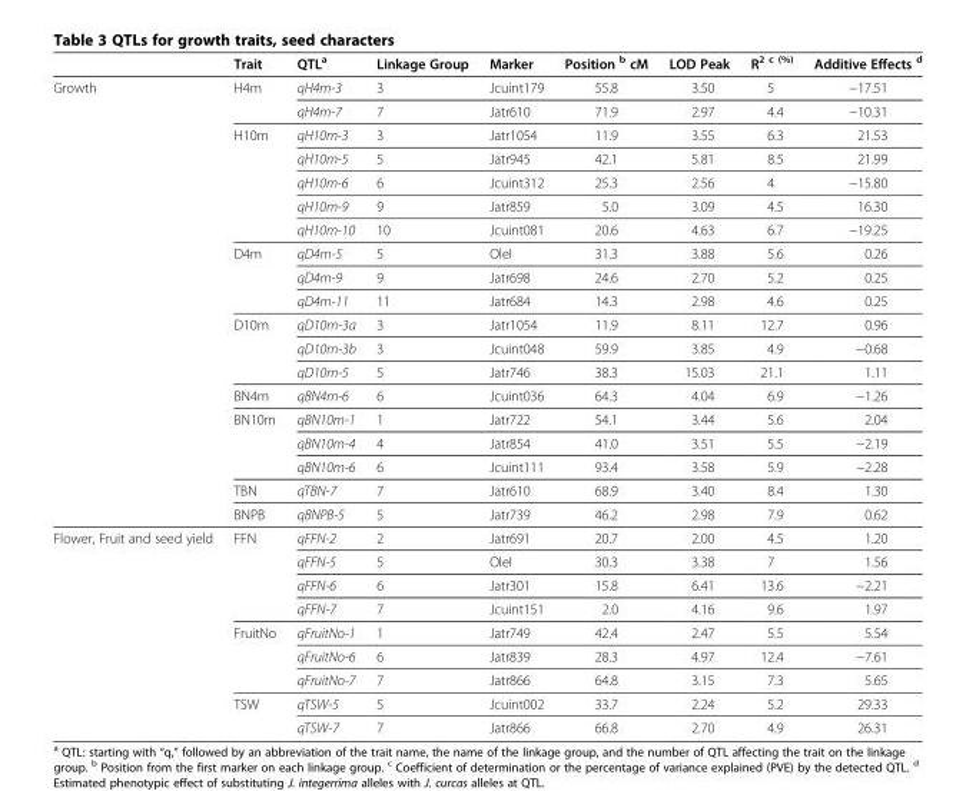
<table><thead><tr><td></td><td>Trait</td><td>QTL<sup>a</sup></td><td>Linkage Group</td><td>Marker</td><td>Position <sup>b</sup> cM</td><td>LOD Peak</td><td>R<sup>2 c (%)</sup></td><td>Additive Effects <sup>d</sup></td></tr></thead><tbody><tr><td rowspan="19">Growth</td><td rowspan="2">H4m</td><td>qH4m-3</td><td>3</td><td>Jcuint179</td><td>55.8</td><td>3.50</td><td>5</td><td>−17.51</td></tr><tr><td>qH4m-7</td><td>7</td><td>Jatr610</td><td>71.9</td><td>2.97</td><td>4.4</td><td>−10.31</td></tr><tr><td rowspan="5">H10m</td><td>qH10m-3</td><td>3</td><td>Jatr1054</td><td>11.9</td><td>3.55</td><td>6.3</td><td>21.53</td></tr><tr><td>qH10m-5</td><td>5</td><td>Jatr945</td><td>42.1</td><td>5.81</td><td>8.5</td><td>21.99</td></tr><tr><td>qH10m-6</td><td>6</td><td>Jcuint312</td><td>25.3</td><td>2.56</td><td>4</td><td>−15.80</td></tr><tr><td>qH10m-9</td><td>9</td><td>Jatr859</td><td>5.0</td><td>3.09</td><td>4.5</td><td>16.30</td></tr><tr><td>qH10m-10</td><td>10</td><td>Jcuint081</td><td>20.6</td><td>4.63</td><td>6.7</td><td>−19.25</td></tr><tr><td rowspan="3">D4m</td><td>qD4m-5</td><td>5</td><td>OleI</td><td>31.3</td><td>3.88</td><td>5.6</td><td>0.26</td></tr><tr><td>qD4m-9</td><td>9</td><td>Jatr698</td><td>24.6</td><td>2.70</td><td>5.2</td><td>0.25</td></tr><tr><td>qD4m-11</td><td>11</td><td>Jatr684</td><td>14.3</td><td>2.98</td><td>4.6</td><td>0.25</td></tr><tr><td rowspan="3">D10m</td><td>qD10m-3a</td><td>3</td><td>Jatr1054</td><td>11.9</td><td>8.11</td><td>12.7</td><td>0.96</td></tr><tr><td>qD10m-3b</td><td>3</td><td>Jcuint048</td><td>59.9</td><td>3.85</td><td>4.9</td><td>−0.68</td></tr><tr><td>qD10m-5</td><td>5</td><td>Jatr746</td><td>38.3</td><td>15.03</td><td>21.1</td><td>1.11</td></tr><tr><td>BN4m</td><td>qBN4m-6</td><td>6</td><td>Jcuint036</td><td>64.3</td><td>4.04</td><td>6.9</td><td>−1.26</td></tr><tr><td rowspan="3">BN10m</td><td>qBN10m-1</td><td>1</td><td>Jatr722</td><td>54.1</td><td>3.44</td><td>5.6</td><td>2.04</td></tr><tr><td>qBN10m-4</td><td>4</td><td>Jatr854</td><td>41.0</td><td>3.51</td><td>5.5</td><td>−2.19</td></tr><tr><td>qBN10m-6</td><td>6</td><td>Jcuint111</td><td>93.4</td><td>3.58</td><td>5.9</td><td>−2.28</td></tr><tr><td>TBN</td><td>qTBN-7</td><td>7</td><td>Jatr610</td><td>68.9</td><td>3.40</td><td>8.4</td><td>1.30</td></tr><tr><td>BNPB</td><td>qBNPB-5</td><td>5</td><td>Jatr739</td><td>46.2</td><td>2.98</td><td>7.9</td><td>0.62</td></tr><tr><td rowspan="9">Flower, Fruit and seed yield</td><td>FFN</td><td>qFFN-2</td><td>2</td><td>Jatr691</td><td>20.7</td><td>2.00</td><td>4.5</td><td>1.20</td></tr><tr><td></td><td>qFFN-5</td><td>5</td><td>OleI</td><td>30.3</td><td>3.38</td><td>7</td><td>1.56</td></tr><tr><td></td><td>qFFN-6</td><td>6</td><td>Jatr301</td><td>15.8</td><td>6.41</td><td>13.6</td><td>−2.21</td></tr><tr><td></td><td>qFFN-7</td><td>7</td><td>Jcuint151</td><td>2.0</td><td>4.16</td><td>9.6</td><td>1.97</td></tr><tr><td>FruitNo</td><td>qFruitNo-1</td><td>1</td><td>Jatr749</td><td>42.4</td><td>2.47</td><td>5.5</td><td>5.54</td></tr><tr><td></td><td>qFruitNo-6</td><td>6</td><td>Jatr839</td><td>28.3</td><td>4.97</td><td>12.4</td><td>−7.61</td></tr><tr><td></td><td>qFruitNo-7</td><td>7</td><td>Jatr866</td><td>64.8</td><td>3.15</td><td>7.3</td><td>5.65</td></tr><tr><td>TSW</td><td>qTSW-5</td><td>5</td><td>Jcuint002</td><td>33.7</td><td>2.24</td><td>5.2</td><td>29.33</td></tr><tr><td></td><td>qTSW-7</td><td>7</td><td>Jatr866</td><td>66.8</td><td>2.70</td><td>4.9</td><td>26.31</td></tr></tbody></table>